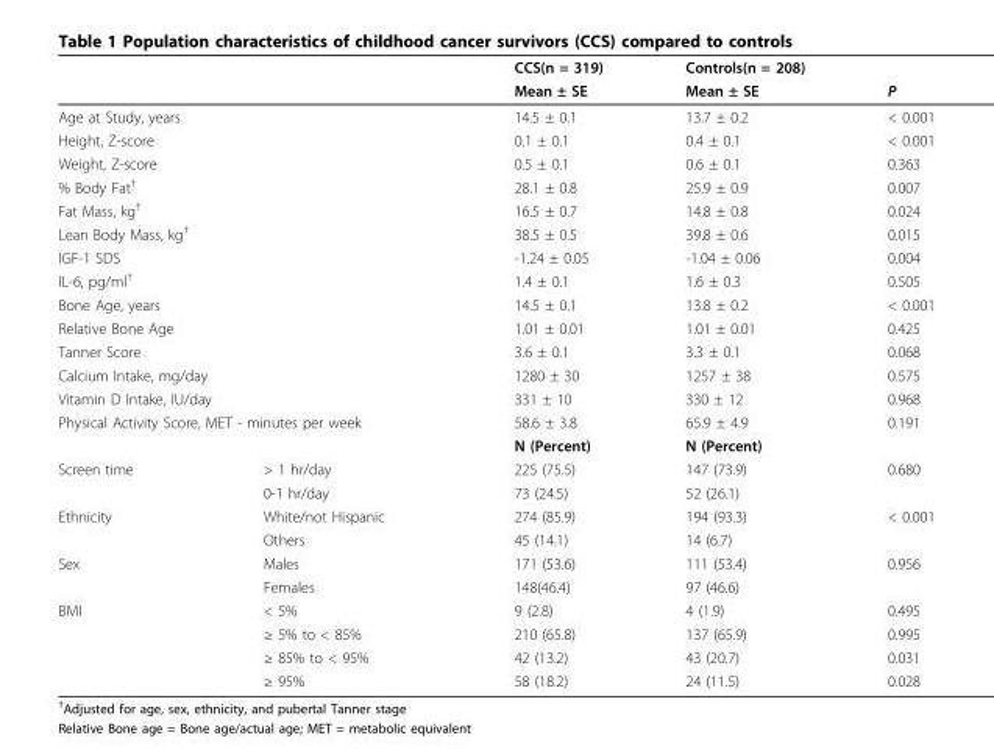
<table><thead><tr><td rowspan="2"></td><td rowspan="2"></td><td rowspan="2">CCS(n = 319) Mean ± SE</td><td rowspan="2">Controls(n = 208) Mean ± SE</td><td rowspan="2">P</td></tr><tr></tr></thead><tbody><tr><td colspan="2">Age at Study, years</td><td>14.5 ± 0.1</td><td>13.7 ± 0.2</td><td>&lt; 0.001</td></tr><tr><td colspan="2">Height, Z-score</td><td>0.1 ± 0.1</td><td>0.4 ± 0.1</td><td>&lt; 0.001</td></tr><tr><td colspan="2">Weight, Z-score</td><td>0.5 ± 0.1</td><td>0.6 ± 0.1</td><td>0.363</td></tr><tr><td colspan="2">% Body Fat<sup>†</sup></td><td>28.1 ± 0.8</td><td>25.9 ± 0.9</td><td>0.007</td></tr><tr><td colspan="2">Fat Mass, kg<sup>†</sup></td><td>16.5 ± 0.7</td><td>14.8 ± 0.8</td><td>0.024</td></tr><tr><td colspan="2">Lean Body Mass, kg<sup>†</sup></td><td>38.5 ± 0.5</td><td>39.8 ± 0.6</td><td>0.015</td></tr><tr><td colspan="2">IGF-1 SDS</td><td>-1.24 ± 0.05</td><td>-1.04 ± 0.06</td><td>0.004</td></tr><tr><td colspan="2">IL-6, pg/ml<sup>†</sup></td><td>1.4 ± 0.1</td><td>1.6 ± 0.3</td><td>0.505</td></tr><tr><td colspan="2">Bone Age, years</td><td>14.5 ± 0.1</td><td>13.8 ± 0.2</td><td>&lt; 0.001</td></tr><tr><td colspan="2">Relative Bone Age</td><td>1.01 ± 0.01</td><td>1.01 ± 0.01</td><td>0.425</td></tr><tr><td colspan="2">Tanner Score</td><td>3.6 ± 0.1</td><td>3.3 ± 0.1</td><td>0.068</td></tr><tr><td colspan="2">Calcium Intake, mg/day</td><td>1280 ± 30</td><td>1257 ± 38</td><td>0.575</td></tr><tr><td colspan="2">Vitamin D Intake, IU/day</td><td>331 ± 10</td><td>330 ± 12</td><td>0.968</td></tr><tr><td colspan="2">Physical Activity Score, MET - minutes per week</td><td>58.6 ± 3.8</td><td>65.9 ± 4.9</td><td>0.191</td></tr><tr><td></td><td></td><td>N (Percent)</td><td>N (Percent)</td><td></td></tr><tr><td rowspan="2">Screen time</td><td>&gt; 1 hr/day</td><td>225 (75.5)</td><td>147 (73.9)</td><td>0.680</td></tr><tr><td>0-1 hr/day</td><td>73 (24.5)</td><td>52 (26.1)</td><td></td></tr><tr><td rowspan="2">Ethnicity</td><td>White/not Hispanic</td><td>274 (85.9)</td><td>194 (93.3)</td><td>&lt; 0.001</td></tr><tr><td>Others</td><td>45 (14.1)</td><td>14 (6.7)</td><td></td></tr><tr><td rowspan="2">Sex</td><td>Males</td><td>171 (53.6)</td><td>111 (53.4)</td><td>0.956</td></tr><tr><td>Females</td><td>148(46.4)</td><td>97 (46.6)</td><td></td></tr><tr><td rowspan="4">BMI</td><td>&lt; 5%</td><td>9 (2.8)</td><td>4 (1.9)</td><td>0.495</td></tr><tr><td>≥ 5% to &lt; 85%</td><td>210 (65.8)</td><td>137 (65.9)</td><td>0.995</td></tr><tr><td>≥ 85% to &lt; 95%</td><td>42 (13.2)</td><td>43 (20.7)</td><td>0.031</td></tr><tr><td>≥ 95%</td><td>58 (18.2)</td><td>24 (11.5)</td><td>0.028</td></tr></tbody></table>